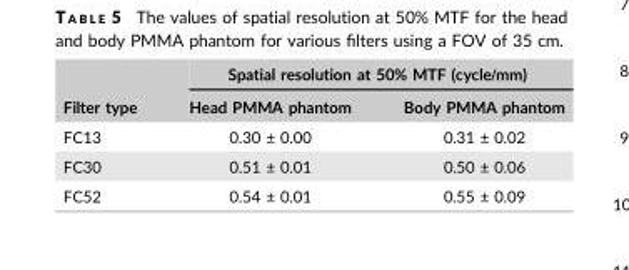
<table><thead><tr><td rowspan="2">Filter type</td><td colspan="2">Spatial resolution at 50% MTF (cycle/mm)</td></tr><tr><td>Head PMMA phantom</td><td>Body PMMA phantom</td></tr></thead><tbody><tr><td>FC13</td><td>0.30 ± 0.00</td><td>0.31 ± 0.02</td></tr><tr><td>FC30</td><td>0.51 ± 0.01</td><td>0.50 ± 0.06</td></tr><tr><td>FC52</td><td>0.54 ± 0.01</td><td>0.55 ± 0.09</td></tr></tbody></table>